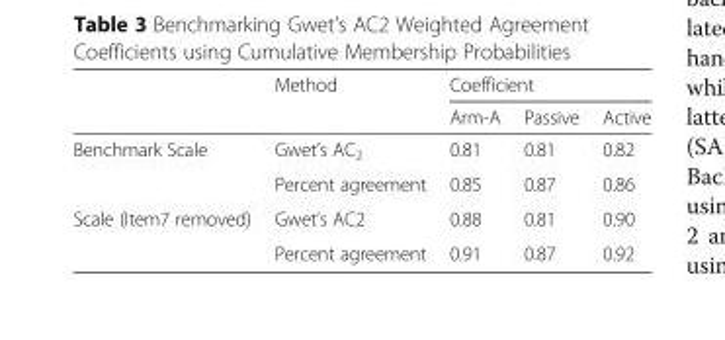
<table><thead><tr><td rowspan="2"></td><td rowspan="2">Method</td><td colspan="3">Coefficient</td></tr><tr><td>Arm-A</td><td>Passive</td><td>Active</td></tr></thead><tbody><tr><td rowspan="2">Benchmark Scale</td><td>Gwet’s AC<sub>2</sub></td><td>0.81</td><td>0.81</td><td>0.82</td></tr><tr><td>Percent agreement</td><td>0.85</td><td>0.87</td><td>0.86</td></tr><tr><td rowspan="2">Scale (Item7 removed)</td><td>Gwet’s AC2</td><td>0.88</td><td>0.81</td><td>0.90</td></tr><tr><td>Percent agreement</td><td>0.91</td><td>0.87</td><td>0.92</td></tr></tbody></table>